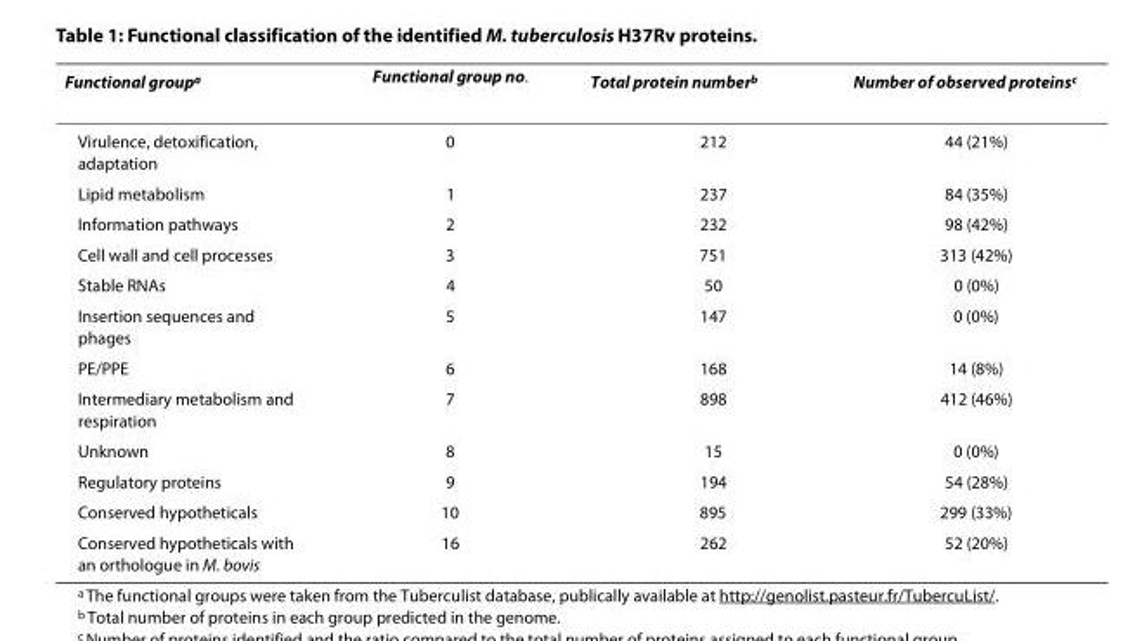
<table><thead><tr><td>Functional group<sup>a</sup></td><td>Functional group no.</td><td>Total protein number<sup>b</sup></td><td>Number of observed proteins<sup>c</sup></td></tr></thead><tbody><tr><td>Virulence, detoxification, adaptation</td><td>0</td><td>212</td><td>44 (21%)</td></tr><tr><td>Lipid metabolism</td><td>1</td><td>237</td><td>84 (35%)</td></tr><tr><td>Information pathways</td><td>2</td><td>232</td><td>98 (42%)</td></tr><tr><td>Cell wall and cell processes</td><td>3</td><td>751</td><td>313 (42%)</td></tr><tr><td>Stable RNAs</td><td>4</td><td>50</td><td>0 (0%)</td></tr><tr><td>Insertion sequences and phages</td><td>5</td><td>147</td><td>0 (0%)</td></tr><tr><td>PE/PPE</td><td>6</td><td>168</td><td>14 (8%)</td></tr><tr><td>Intermediary metabolism and respiration</td><td>7</td><td>898</td><td>412 (46%)</td></tr><tr><td>Unknown</td><td>8</td><td>15</td><td>0 (0%)</td></tr><tr><td>Regulatory proteins</td><td>9</td><td>194</td><td>54 (28%)</td></tr><tr><td>Conserved hypotheticals</td><td>10</td><td>895</td><td>299 (33%)</td></tr><tr><td>Conserved hypotheticals with an orthologue in M. bovis</td><td>16</td><td>262</td><td>52 (20%)</td></tr></tbody></table>